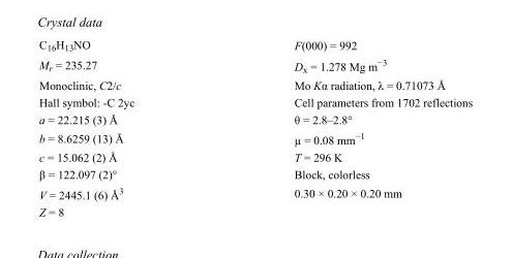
<table><tbody><tr><td>C<sub>16</sub>H<sub>13</sub>NO</td><td>F(000) = 992</td></tr><tr><td>M<sub>r</sub> = 235.27</td><td>D<sub>x</sub> = 1.278 Mg m<sup>−3</sup></td></tr><tr><td>Monoclinic, C2/c</td><td>Mo Kα radiation, λ = 0.71073 Å</td></tr><tr><td>Hall symbol: -C 2yc</td><td>Cell parameters from 1702 reflections</td></tr><tr><td>a = 22.215 (3) Å</td><td>θ = 2.8–2.8°</td></tr><tr><td>b = 8.6259 (13) Å</td><td>µ = 0.08 mm<sup>−1</sup></td></tr><tr><td>c = 15.062 (2) Å</td><td>T = 296 K</td></tr><tr><td>β = 122.097 (2)°</td><td>Block, colorless</td></tr><tr><td>V = 2445.1 (6) Å<sup>3</sup></td><td>0.30 × 0.20 × 0.20 mm</td></tr><tr><td>Z = 8</td><td></td></tr></tbody></table>